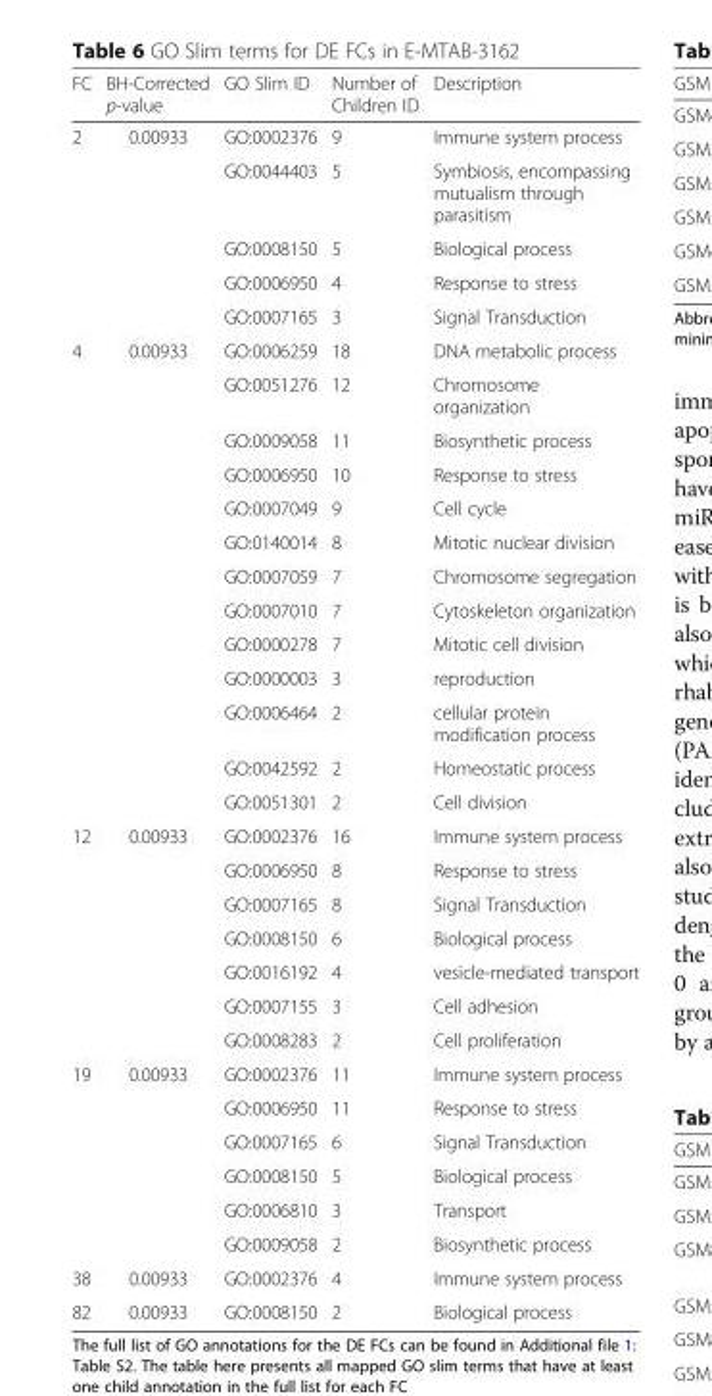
<table><thead><tr><td>FC</td><td>BH-Corrected p-value</td><td>GO Slim ID</td><td>Number of Children ID</td><td>Description</td></tr></thead><tbody><tr><td rowspan="5">2</td><td rowspan="5">0.00933</td><td>GO:0002376</td><td>9</td><td>Immune system process</td></tr><tr><td>GO:0044403</td><td>5</td><td>Symbiosis, encompassing mutualism through parasitism</td></tr><tr><td>GO:0008150</td><td>5</td><td>Biological process</td></tr><tr><td>GO:0006950</td><td>4</td><td>Response to stress</td></tr><tr><td>GO:0007165</td><td>3</td><td>Signal Transduction</td></tr><tr><td rowspan="13">4</td><td rowspan="13">0.00933</td><td>GO:0006259</td><td>18</td><td>DNA metabolic process</td></tr><tr><td>GO:0051276</td><td>12</td><td>Chromosome organization</td></tr><tr><td>GO:0009058</td><td>11</td><td>Biosynthetic process</td></tr><tr><td>GO:0006950</td><td>10</td><td>Response to stress</td></tr><tr><td>GO:0007049</td><td>9</td><td>Cell cycle</td></tr><tr><td>GO:0140014</td><td>8</td><td>Mitotic nuclear division</td></tr><tr><td>GO:0007059</td><td>7</td><td>Chromosome segregation</td></tr><tr><td>GO:0007010</td><td>7</td><td>Cytoskeleton organization</td></tr><tr><td>GO:0000278</td><td>7</td><td>Mitotic cell division</td></tr><tr><td>GO:0000003</td><td>3</td><td>reproduction</td></tr><tr><td>GO:0006464</td><td>2</td><td>cellular protein modification process</td></tr><tr><td>GO:0042592</td><td>2</td><td>Homeostatic process</td></tr><tr><td>GO:0051301</td><td>2</td><td>Cell division</td></tr><tr><td rowspan="7">12</td><td rowspan="7">0.00933</td><td>GO:0002376</td><td>16</td><td>Immune system process</td></tr><tr><td>GO:0006950</td><td>8</td><td>Response to stress</td></tr><tr><td>GO:0007165</td><td>8</td><td>Signal Transduction</td></tr><tr><td>GO:0008150</td><td>6</td><td>Biological process</td></tr><tr><td>GO:0016192</td><td>4</td><td>vesicle-mediated transport</td></tr><tr><td>GO:0007155</td><td>3</td><td>Cell adhesion</td></tr><tr><td>GO:0008283</td><td>2</td><td>Cell proliferation</td></tr><tr><td rowspan="6">19</td><td rowspan="6">0.00933</td><td>GO:0002376</td><td>11</td><td>Immune system process</td></tr><tr><td>GO:0006950</td><td>11</td><td>Response to stress</td></tr><tr><td>GO:0007165</td><td>6</td><td>Signal Transduction</td></tr><tr><td>GO:0008150</td><td>5</td><td>Biological process</td></tr><tr><td>GO:0006810</td><td>3</td><td>Transport</td></tr><tr><td>GO:0009058</td><td>2</td><td>Biosynthetic process</td></tr><tr><td>38</td><td>0.00933</td><td>GO:0002376</td><td>4</td><td>Immune system process</td></tr><tr><td>82</td><td>0.00933</td><td>GO:0008150</td><td>2</td><td>Biological process</td></tr></tbody></table>